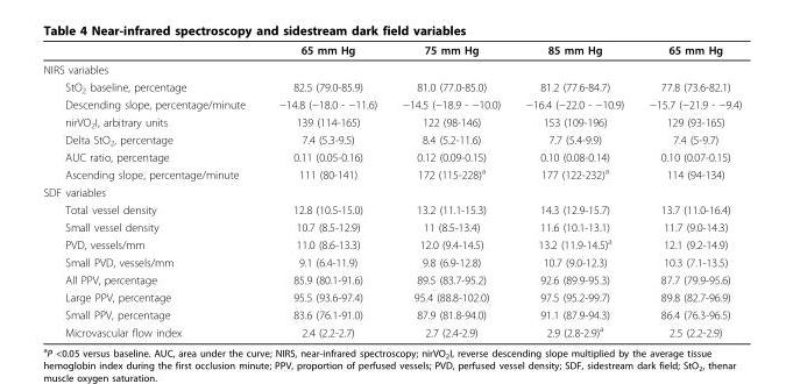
<table><thead><tr><td></td><td>65 mm Hg</td><td>75 mm Hg</td><td>85 mm Hg</td><td>65 mm Hg</td></tr></thead><tbody><tr><td colspan="5">NIRS variables</td></tr><tr><td>StO<sub>2</sub> baseline, percentage</td><td>82.5 (79.0-85.9)</td><td>81.0 (77.0-85.0)</td><td>81.2 (77.6-84.7)</td><td>77.8 (73.6-82.1)</td></tr><tr><td>Descending slope, percentage/minute</td><td>−14.8 (−18.0 - −11.6)</td><td>−14.5 (−18.9 - −10.0)</td><td>−16.4 (−22.0 - −10.9)</td><td>−15.7 (−21.9 - −9.4)</td></tr><tr><td>nirVO<sub>2</sub>I, arbitrary units</td><td>139 (114-165)</td><td>122 (98-146)</td><td>153 (109-196)</td><td>129 (93-165)</td></tr><tr><td>Delta StO<sub>2</sub>, percentage</td><td>7.4 (5.3-9.5)</td><td>8.4 (5.2-11.6)</td><td>7.7 (5.4-9.9)</td><td>7.4 (5-9.7)</td></tr><tr><td>AUC ratio, percentage</td><td>0.11 (0.05-0.16)</td><td>0.12 (0.09-0.15)</td><td>0.10 (0.08-0.14)</td><td>0.10 (0.07-0.15)</td></tr><tr><td>Ascending slope, percentage/minute</td><td>111 (80-141)</td><td>172 (115-228)<sup>a</sup></td><td>177 (122-232)<sup>a</sup></td><td>114 (94-134)</td></tr><tr><td colspan="5">SDF variables</td></tr><tr><td>Total vessel density</td><td>12.8 (10.5-15.0)</td><td>13.2 (11.1-15.3)</td><td>14.3 (12.9-15.7)</td><td>13.7 (11.0-16.4)</td></tr><tr><td>Small vessel density</td><td>10.7 (8.5-12.9)</td><td>11 (8.5-13.4)</td><td>11.6 (10.1-13.1)</td><td>11.7 (9.0-14.3)</td></tr><tr><td>PVD, vessels/mm</td><td>11.0 (8.6-13.3)</td><td>12.0 (9.4-14.5)</td><td>13.2 (11.9-14.5)<sup>a</sup></td><td>12.1 (9.2-14.9)</td></tr><tr><td>Small PVD, vessels/mm</td><td>9.1 (6.4-11.9)</td><td>9.8 (6.9-12.8)</td><td>10.7 (9.0-12.3)</td><td>10.3 (7.1-13.5)</td></tr><tr><td>All PPV, percentage</td><td>85.9 (80.1-91.6)</td><td>89.5 (83.7-95.2)</td><td>92.6 (89.9-95.3)</td><td>87.7 (79.9-95.6)</td></tr><tr><td>Large PPV, percentage</td><td>95.5 (93.6-97.4)</td><td>95.4 (88.8-102.0)</td><td>97.5 (95.2-99.7)</td><td>89.8 (82.7-96.9)</td></tr><tr><td>Small PPV, percentage</td><td>83.6 (76.1-91.0)</td><td>87.9 (81.8-94.0)</td><td>91.1 (87.9-94.3)</td><td>86.4 (76.3-96.5)</td></tr><tr><td>Microvascular flow index</td><td>2.4 (2.2-2.7)</td><td>2.7 (2.4-2.9)</td><td>2.9 (2.8-2.9)<sup>a</sup></td><td>2.5 (2.2-2.9)</td></tr></tbody></table>